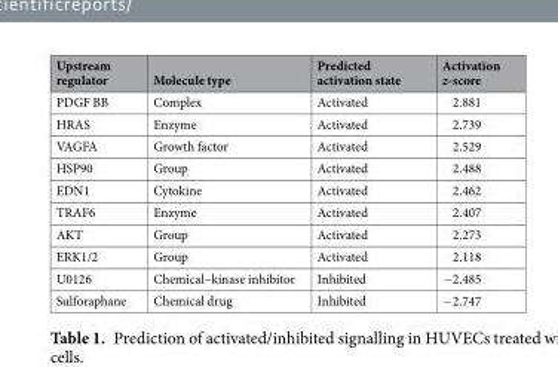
<table><thead><tr><td>Upstream regulator</td><td>Molecule type</td><td>Predicted activation state</td><td>Activation z-score</td></tr></thead><tbody><tr><td>PDGF BB</td><td>Complex</td><td>Activated</td><td>2.881</td></tr><tr><td>HRAS</td><td>Enzyme</td><td>Activated</td><td>2.739</td></tr><tr><td>VAGFA</td><td>Growth factor</td><td>Activated</td><td>2.529</td></tr><tr><td>HSP90</td><td>Group</td><td>Activated</td><td>2.488</td></tr><tr><td>EDN1</td><td>Cytokine</td><td>Activated</td><td>2.462</td></tr><tr><td>TRAF6</td><td>Enzyme</td><td>Activated</td><td>2.407</td></tr><tr><td>AKT</td><td>Group</td><td>Activated</td><td>2.273</td></tr><tr><td>ERK1/2</td><td>Group</td><td>Activated</td><td>2.118</td></tr><tr><td>U0126</td><td>Chemical–kinase inhibitor</td><td>Inhibited</td><td>−2.485</td></tr><tr><td>Sulforaphane</td><td>Chemical drug</td><td>Inhibited</td><td>−2.747</td></tr></tbody></table>